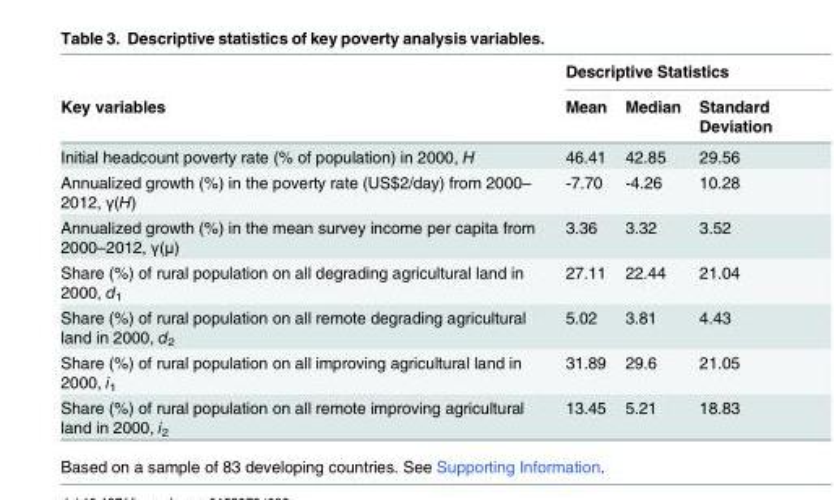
<table><thead><tr><td rowspan="2">Key variables</td><td colspan="3">Descriptive Statistics</td></tr><tr><td>Mean</td><td>Median</td><td>Standard Deviation</td></tr></thead><tbody><tr><td>Initial headcount poverty rate (% of population) in 2000, H</td><td>46.41</td><td>42.85</td><td>29.56</td></tr><tr><td>Annualized growth (%) in the poverty rate (US$2/day) from 2000– 2012, γ(H)</td><td>-7.70</td><td>-4.26</td><td>10.28</td></tr><tr><td>Annualized growth (%) in the mean survey income per capita from 2000–2012, γ(μ)</td><td>3.36</td><td>3.32</td><td>3.52</td></tr><tr><td>Share (%) of rural population on all degrading agricultural land in 2000, d<sub>1</sub></td><td>27.11</td><td>22.44</td><td>21.04</td></tr><tr><td>Share (%) of rural population on all remote degrading agricultural land in 2000, d<sub>2</sub></td><td>5.02</td><td>3.81</td><td>4.43</td></tr><tr><td>Share (%) of rural population on all improving agricultural land in 2000, i<sub>1</sub></td><td>31.89</td><td>29.6</td><td>21.05</td></tr><tr><td>Share (%) of rural population on all remote improving agricultural land in 2000, i<sub>2</sub></td><td>13.45</td><td>5.21</td><td>18.83</td></tr></tbody></table>